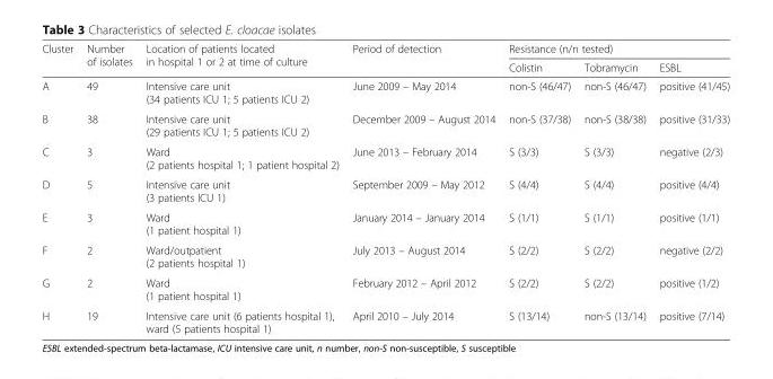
<table><thead><tr><td rowspan="2">Cluster</td><td rowspan="2">Number of isolates</td><td rowspan="2">Location of patients located in hospital 1 or 2 at time of culture</td><td rowspan="2">Period of detection</td><td colspan="3">Resistance (n/n tested)</td></tr><tr><td>Colistin</td><td>Tobramycin</td><td>ESBL</td></tr></thead><tbody><tr><td>A</td><td>49</td><td>Intensive care unit (34 patients ICU 1; 5 patients ICU 2)</td><td>June 2009 – May 2014</td><td>non-S (46/47)</td><td>non-S (46/47)</td><td>positive (41/45)</td></tr><tr><td>B</td><td>38</td><td>Intensive care unit (29 patients ICU 1; 5 patients ICU 2)</td><td>December 2009 – August 2014</td><td>non-S (37/38)</td><td>non-S (38/38)</td><td>positive (31/33)</td></tr><tr><td>C</td><td>3</td><td>Ward (2 patients hospital 1; 1 patient hospital 2)</td><td>June 2013 – February 2014</td><td>S (3/3)</td><td>S (3/3)</td><td>negative (2/3)</td></tr><tr><td>D</td><td>5</td><td>Intensive care unit (3 patients ICU 1)</td><td>September 2009 – May 2012</td><td>S (4/4)</td><td>S (4/4)</td><td>positive (4/4)</td></tr><tr><td>E</td><td>3</td><td>Ward (1 patient hospital 1)</td><td>January 2014 – January 2014</td><td>S (1/1)</td><td>S (1/1)</td><td>positive (1/1)</td></tr><tr><td>F</td><td>2</td><td>Ward/outpatient (2 patients hospital 1)</td><td>July 2013 – August 2014</td><td>S (2/2)</td><td>S (2/2)</td><td>negative (2/2)</td></tr><tr><td>G</td><td>2</td><td>Ward (1 patient hospital 1)</td><td>February 2012 – April 2012</td><td>S (2/2)</td><td>S (2/2)</td><td>positive (1/2)</td></tr><tr><td>H</td><td>19</td><td>Intensive care unit (6 patients hospital 1), ward (5 patients hospital 1)</td><td>April 2010 – July 2014</td><td>S (13/14)</td><td>non-S (13/14)</td><td>positive (7/14)</td></tr></tbody></table>